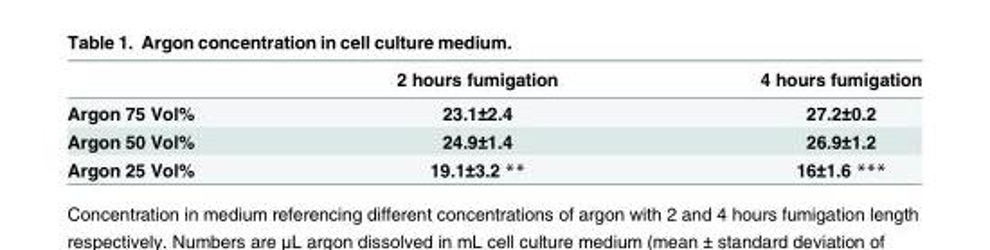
<table><thead><tr><td></td><td>2 hours fumigation</td><td>4 hours fumigation</td></tr></thead><tbody><tr><td>Argon 75 Vol%</td><td>23.1±2.4</td><td>27.2±0.2</td></tr><tr><td>Argon 50 Vol%</td><td>24.9±1.4</td><td>26.9±1.2</td></tr><tr><td>Argon 25 Vol%</td><td>19.1±3.2 **</td><td>16±1.6 ***</td></tr></tbody></table>